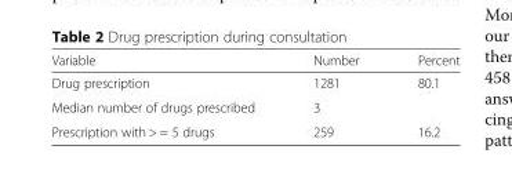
<table><thead><tr><td>Variable</td><td>Number</td><td>Percent</td></tr></thead><tbody><tr><td>Drug prescription</td><td>1281</td><td>80.1</td></tr><tr><td>Median number of drugs prescribed</td><td>3</td><td></td></tr><tr><td>Prescription with &gt; = 5 drugs</td><td>259</td><td>16.2</td></tr></tbody></table>